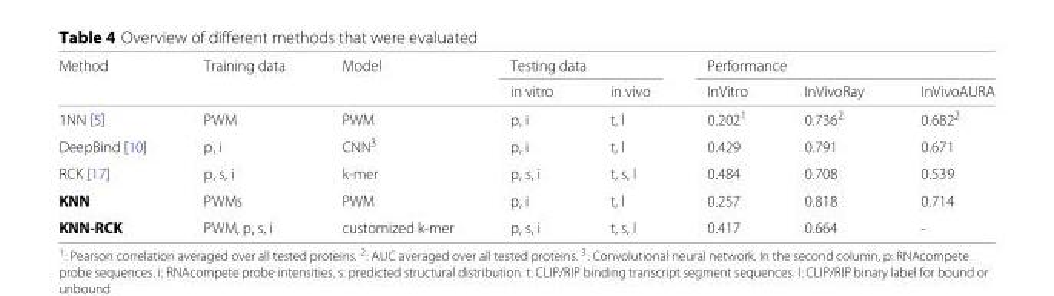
<table><thead><tr><td rowspan="2">Method</td><td rowspan="2">Training data</td><td rowspan="2">Model</td><td colspan="2">Testing data</td><td colspan="3">Performance</td></tr><tr><td>in vitro</td><td>in vivo</td><td>InVitro</td><td>InVivoRay</td><td>InVivoAURA</td></tr></thead><tbody><tr><td>1NN [5]</td><td>PWM</td><td>PWM</td><td>p, i</td><td>t, l</td><td>0.202<sup>1</sup></td><td>0.736<sup>2</sup></td><td>0.682<sup>2</sup></td></tr><tr><td>DeepBind [10]</td><td>p, i</td><td>CNN<sup>3</sup></td><td>p, i</td><td>t, l</td><td>0.429</td><td>0.791</td><td>0.671</td></tr><tr><td>RCK [17]</td><td>p, s, i</td><td>k-mer</td><td>p, s, i</td><td>t, s, l</td><td>0.484</td><td>0.708</td><td>0.539</td></tr><tr><td>KNN</td><td>PWMs</td><td>PWM</td><td>p, i</td><td>t, l</td><td>0.257</td><td>0.818</td><td>0.714</td></tr><tr><td>KNN-RCK</td><td>PWM, p, s, i</td><td>customized k-mer</td><td>p, s, i</td><td>t, s, l</td><td>0.417</td><td>0.664</td><td>-</td></tr></tbody></table>